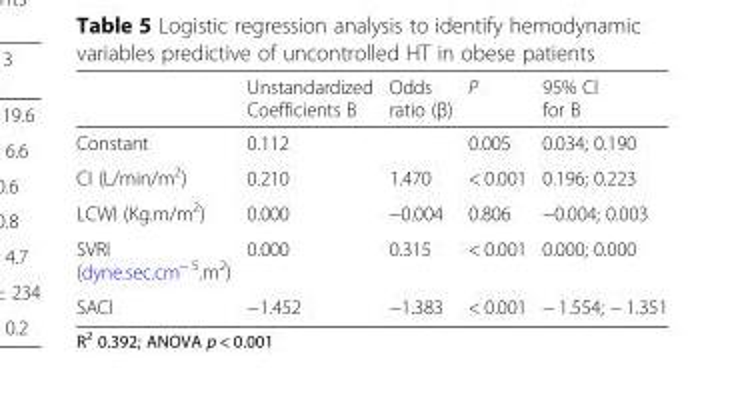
<table><thead><tr><td></td><td>Unstandardized Coefficients B</td><td>Odds ratio (β)</td><td>P</td><td>95% Cl for B</td></tr></thead><tbody><tr><td>Constant</td><td>0.112</td><td></td><td>0.005</td><td>0.034; 0.190</td></tr><tr><td>CI (L/min/m<sup>2</sup>)</td><td>0.210</td><td>1.470</td><td>&lt; 0.001</td><td>0.196; 0.223</td></tr><tr><td>LCWI (Kg.m/m<sup>2</sup>)</td><td>0.000</td><td>−0.004</td><td>0.806</td><td>−0.004; 0.003</td></tr><tr><td>SVRI (dyne.sec.cm<sup>− 5</sup>.m<sup>2</sup>)</td><td>0.000</td><td>0.315</td><td>&lt; 0.001</td><td>0.000; 0.000</td></tr><tr><td>SACI</td><td>−1.452</td><td>−1.383</td><td>&lt; 0.001</td><td>− 1.554; − 1.351</td></tr></tbody></table>